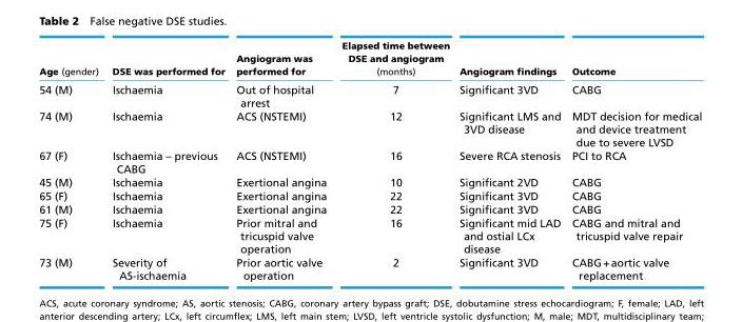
<table><thead><tr><td>Age (gender)</td><td>DSE was performed for</td><td>Angiogram was performed for</td><td>Elapsed time between DSE and angiogram (months)</td><td>Angiogram findings</td><td>Outcome</td></tr></thead><tbody><tr><td>54 (M)</td><td>Ischaemia</td><td>Out of hospital arrest</td><td>7</td><td>Significant 3VD</td><td>CABG</td></tr><tr><td>74 (M)</td><td>Ischaemia</td><td>ACS (NSTEMI)</td><td>12</td><td>Significant LMS and 3VD disease</td><td>MDT decision for medical and device treatment due to severe LVSD</td></tr><tr><td>67 (F)</td><td>Ischaemia – previous CABG</td><td>ACS (NSTEMI)</td><td>16</td><td>Severe RCA stenosis</td><td>PCI to RCA</td></tr><tr><td>45 (M)</td><td>Ischaemia</td><td>Exertional angina</td><td>10</td><td>Significant 2VD</td><td>CABG</td></tr><tr><td>65 (F)</td><td>Ischaemia</td><td>Exertional angina</td><td>22</td><td>Significant 3VD</td><td>CABG</td></tr><tr><td>61 (M)</td><td>Ischaemia</td><td>Exertional angina</td><td>22</td><td>Significant 3VD</td><td>CABG</td></tr><tr><td>75 (F)</td><td>Ischaemia</td><td>Prior mitral and tricuspid valve operation</td><td>16</td><td>Significant mid LAD and ostial LCx disease</td><td>CABG and mitral and tricuspid valve repair</td></tr><tr><td>73 (M)</td><td>Severity of AS-ischaemia</td><td>Prior aortic valve operation</td><td>2</td><td>Significant 3VD</td><td>CABG + aortic valve replacement</td></tr></tbody></table>